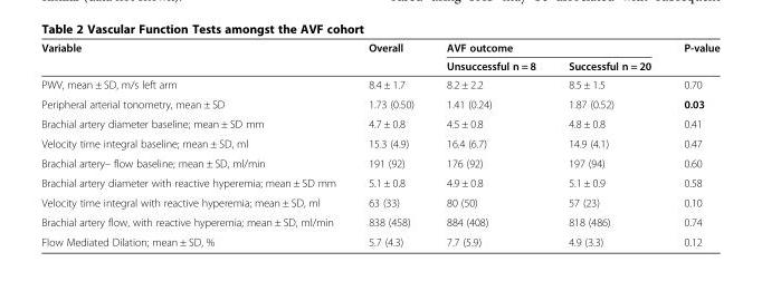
<table><thead><tr><td rowspan="2">Variable</td><td rowspan="2">Overall</td><td colspan="2">AVF outcome</td><td rowspan="2">P-value</td></tr><tr><td>Unsuccessful n = 8</td><td>Successful n = 20</td></tr></thead><tbody><tr><td>PWV, mean ± SD, m/s left arm</td><td>8.4 ± 1.7</td><td>8.2 ± 2.2</td><td>8.5 ± 1.5</td><td>0.70</td></tr><tr><td>Peripheral arterial tonometry, mean ± SD</td><td>1.73 (0.50)</td><td>1.41 (0.24)</td><td>1.87 (0.52)</td><td>0.03</td></tr><tr><td>Brachial artery diameter baseline; mean ± SD mm</td><td>4.7 ± 0.8</td><td>4.5 ± 0.8</td><td>4.8 ± 0.8</td><td>0.41</td></tr><tr><td>Velocity time integral baseline; mean ± SD, ml</td><td>15.3 (4.9)</td><td>16.4 (6.7)</td><td>14.9 (4.1)</td><td>0.47</td></tr><tr><td>Brachial artery– flow baseline; mean ± SD, ml/min</td><td>191 (92)</td><td>176 (92)</td><td>197 (94)</td><td>0.60</td></tr><tr><td>Brachial artery diameter with reactive hyperemia; mean ± SD mm</td><td>5.1 ± 0.8</td><td>4.9 ± 0.8</td><td>5.1 ± 0.9</td><td>0.58</td></tr><tr><td>Velocity time integral with reactive hyperemia; mean ± SD, ml</td><td>63 (33)</td><td>80 (50)</td><td>57 (23)</td><td>0.10</td></tr><tr><td>Brachial artery flow, with reactive hyperemia; mean ± SD, ml/min</td><td>838 (458)</td><td>884 (408)</td><td>818 (486)</td><td>0.74</td></tr><tr><td>Flow Mediated Dilation; mean ± SD, %</td><td>5.7 (4.3)</td><td>7.7 (5.9)</td><td>4.9 (3.3)</td><td>0.12</td></tr></tbody></table>